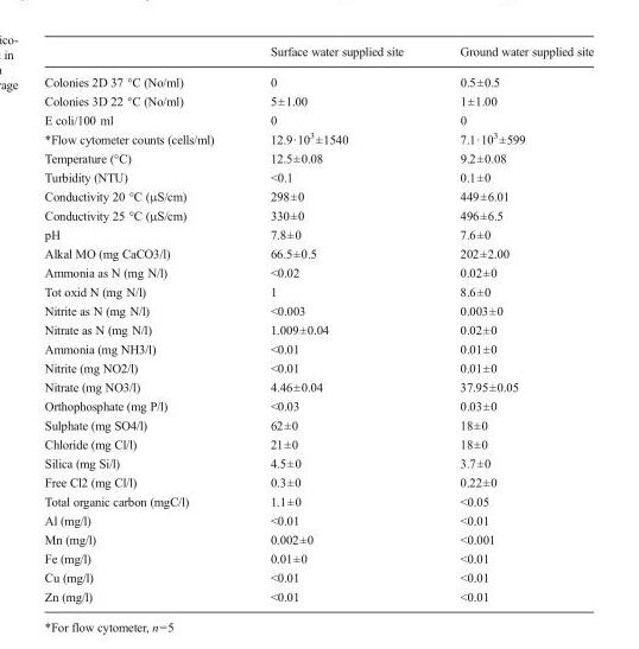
<table><thead><tr><td></td><td>Surface water supplied site</td><td>Ground water supplied site</td></tr></thead><tbody><tr><td>Colonies 2D 37 °C (No/ml)</td><td>0</td><td>0.5±0.5</td></tr><tr><td>Colonies 3D 22 °C (No/ml)</td><td>5±1.00</td><td>1±1.00</td></tr><tr><td>E coli/100 ml</td><td>0</td><td>0</td></tr><tr><td>*Flow cytometer counts (cells/ml)</td><td>12.9·10<sup>3</sup>±1540</td><td>7.1·10<sup>3</sup>±599</td></tr><tr><td>Temperature (°C)</td><td>12.5±0.08</td><td>9.2±0.08</td></tr><tr><td>Turbidity (NTU)</td><td>&lt;0.1</td><td>0.1±0</td></tr><tr><td>Conductivity 20 °C (μS/cm)</td><td>298±0</td><td>449±6.01</td></tr><tr><td>Conductivity 25 °C (μS/cm)</td><td>330±0</td><td>496±6.5</td></tr><tr><td>pH</td><td>7.8±0</td><td>7.6±0</td></tr><tr><td>Alkal MO (mg CaCO3/l)</td><td>66.5±0.5</td><td>202±2.00</td></tr><tr><td>Ammonia as N (mg N/l)</td><td>&lt;0.02</td><td>0.02±0</td></tr><tr><td>Tot oxid N (mg N/l)</td><td>1</td><td>8.6±0</td></tr><tr><td>Nitrite as N (mg N/l)</td><td>&lt;0.003</td><td>0.003±0</td></tr><tr><td>Nitrate as N (mg N/l)</td><td>1.009±0.04</td><td>0.02±0</td></tr><tr><td>Ammonia (mg NH3/l)</td><td>&lt;0.01</td><td>0.01±0</td></tr><tr><td>Nitrite (mg NO2/l)</td><td>&lt;0.01</td><td>0.01±0</td></tr><tr><td>Nitrate (mg NO3/l)</td><td>4.46±0.04</td><td>37.95±0.05</td></tr><tr><td>Orthophosphate (mg P/l)</td><td>&lt;0.03</td><td>0.03±0</td></tr><tr><td>Sulphate (mg SO4/l)</td><td>62±0</td><td>18±0</td></tr><tr><td>Chloride (mg Cl/l)</td><td>21±0</td><td>18±0</td></tr><tr><td>Silica (mg Si/l)</td><td>4.5±0</td><td>3.7±0</td></tr><tr><td>Free Cl2 (mg Cl/l)</td><td>0.3±0</td><td>0.22±0</td></tr><tr><td>Total organic carbon (mgC/l)</td><td>1.1±0</td><td>&lt;0.05</td></tr><tr><td>Al (mg/l)</td><td>&lt;0.01</td><td>&lt;0.01</td></tr><tr><td>Mn (mg/l)</td><td>0.002±0</td><td>&lt;0.001</td></tr><tr><td>Fe (mg/l)</td><td>0.01±0</td><td>&lt;0.01</td></tr><tr><td>Cu (mg/l)</td><td>&lt;0.01</td><td>&lt;0.01</td></tr><tr><td>Zn (mg/l)</td><td>&lt;0.01</td><td>&lt;0.01</td></tr></tbody></table>